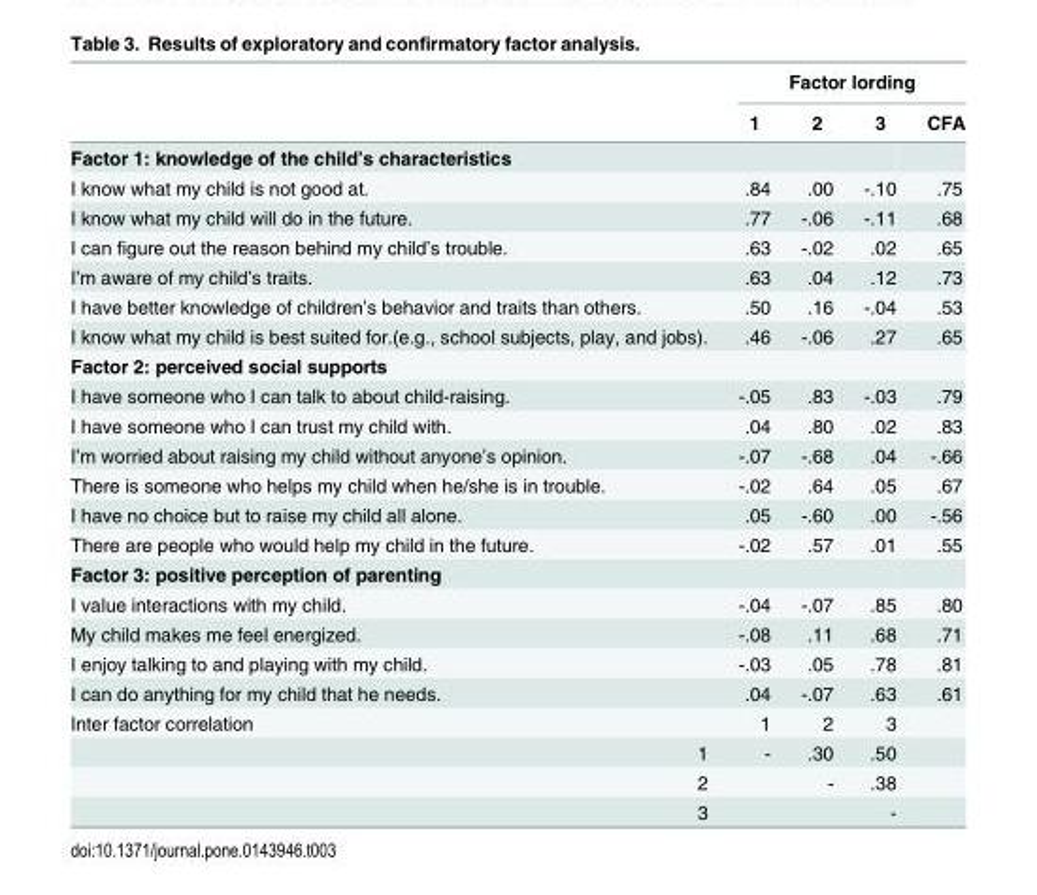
<table><thead><tr><td rowspan="2"></td><td colspan="4">Factor lording</td></tr><tr><td>1</td><td>2</td><td>3</td><td>CFA</td></tr></thead><tbody><tr><td colspan="5">Factor 1: knowledge of the child’s characteristics</td></tr><tr><td>I know what my child is not good at.</td><td>.84</td><td>.00</td><td>-.10</td><td>.75</td></tr><tr><td>I know what my child will do in the future.</td><td>.77</td><td>-.06</td><td>-.11</td><td>.68</td></tr><tr><td>I can figure out the reason behind my child’s trouble.</td><td>.63</td><td>-.02</td><td>.02</td><td>.65</td></tr><tr><td>I’m aware of my child’s traits.</td><td>.63</td><td>.04</td><td>.12</td><td>.73</td></tr><tr><td>I have better knowledge of children’s behavior and traits than others.</td><td>.50</td><td>.16</td><td>-.04</td><td>.53</td></tr><tr><td>I know what my child is best suited for.(e.g., school subjects, play, and jobs).</td><td>.46</td><td>-.06</td><td>.27</td><td>.65</td></tr><tr><td colspan="5">Factor 2: perceived social supports</td></tr><tr><td>I have someone who I can talk to about child-raising.</td><td>-.05</td><td>.83</td><td>-.03</td><td>.79</td></tr><tr><td>I have someone who I can trust my child with.</td><td>.04</td><td>.80</td><td>.02</td><td>.83</td></tr><tr><td>I’m worried about raising my child without anyone’s opinion.</td><td>-.07</td><td>-.68</td><td>.04</td><td>-.66</td></tr><tr><td>There is someone who helps my child when he/she is in trouble.</td><td>-.02</td><td>.64</td><td>.05</td><td>.67</td></tr><tr><td>I have no choice but to raise my child all alone.</td><td>.05</td><td>-.60</td><td>.00</td><td>-.56</td></tr><tr><td>There are people who would help my child in the future.</td><td>-.02</td><td>.57</td><td>.01</td><td>.55</td></tr><tr><td colspan="5">Factor 3: positive perception of parenting</td></tr><tr><td>I value interactions with my child.</td><td>-.04</td><td>-.07</td><td>.85</td><td>.80</td></tr><tr><td>My child makes me feel energized.</td><td>-.08</td><td>.11</td><td>.68</td><td>.71</td></tr><tr><td>I enjoy talking to and playing with my child.</td><td>-.03</td><td>.05</td><td>.78</td><td>.81</td></tr><tr><td>I can do anything for my child that he needs.</td><td>.04</td><td>-.07</td><td>.63</td><td>.61</td></tr><tr><td>Inter factor correlation</td><td>1</td><td>2</td><td>3</td><td></td></tr><tr><td>1</td><td>-</td><td>.30</td><td>.50</td><td></td></tr><tr><td>2</td><td></td><td>-</td><td>.38</td><td></td></tr><tr><td>3</td><td></td><td></td><td>-</td><td></td></tr></tbody></table>